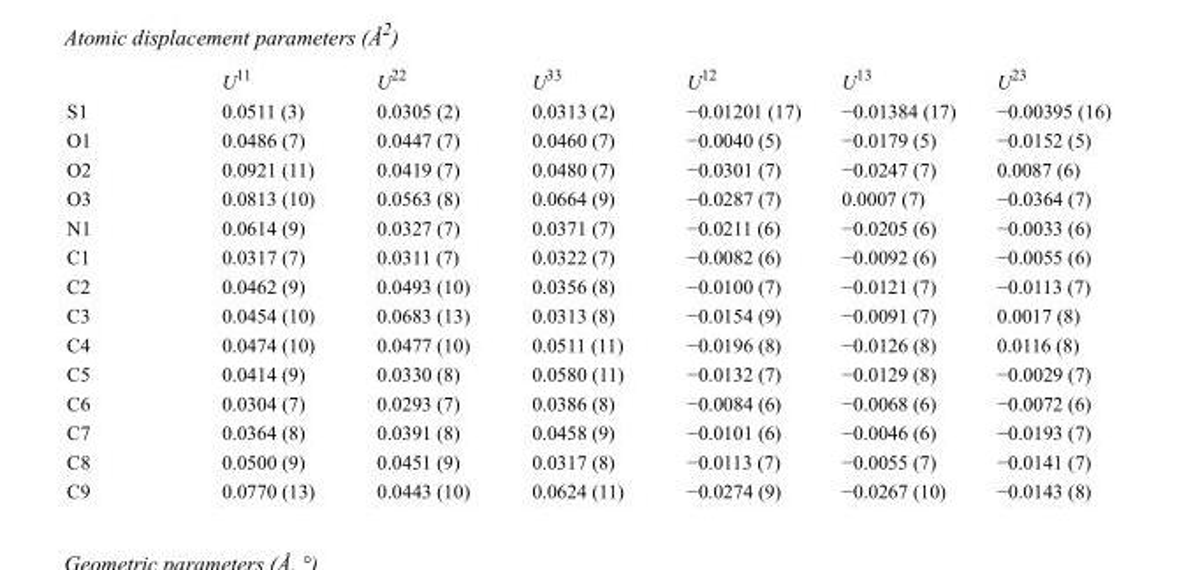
<table><thead><tr><td></td><td>U<sup>11</sup></td><td>U<sup>22</sup></td><td>U<sup>33</sup></td><td>U<sup>12</sup></td><td>U<sup>13</sup></td><td>U<sup>23</sup></td></tr></thead><tbody><tr><td>S1</td><td>0.0511 (3)</td><td>0.0305 (2)</td><td>0.0313 (2)</td><td>−0.01201 (17)</td><td>−0.01384 (17)</td><td>−0.00395 (16)</td></tr><tr><td>O1</td><td>0.0486 (7)</td><td>0.0447 (7)</td><td>0.0460 (7)</td><td>−0.0040 (5)</td><td>−0.0179 (5)</td><td>−0.0152 (5)</td></tr><tr><td>O2</td><td>0.0921 (11)</td><td>0.0419 (7)</td><td>0.0480 (7)</td><td>−0.0301 (7)</td><td>−0.0247 (7)</td><td>0.0087 (6)</td></tr><tr><td>O3</td><td>0.0813 (10)</td><td>0.0563 (8)</td><td>0.0664 (9)</td><td>−0.0287 (7)</td><td>0.0007 (7)</td><td>−0.0364 (7)</td></tr><tr><td>N1</td><td>0.0614 (9)</td><td>0.0327 (7)</td><td>0.0371 (7)</td><td>−0.0211 (6)</td><td>−0.0205 (6)</td><td>−0.0033 (6)</td></tr><tr><td>C1</td><td>0.0317 (7)</td><td>0.0311 (7)</td><td>0.0322 (7)</td><td>−0.0082 (6)</td><td>−0.0092 (6)</td><td>−0.0055 (6)</td></tr><tr><td>C2</td><td>0.0462 (9)</td><td>0.0493 (10)</td><td>0.0356 (8)</td><td>−0.0100 (7)</td><td>−0.0121 (7)</td><td>−0.0113 (7)</td></tr><tr><td>C3</td><td>0.0454 (10)</td><td>0.0683 (13)</td><td>0.0313 (8)</td><td>−0.0154 (9)</td><td>−0.0091 (7)</td><td>0.0017 (8)</td></tr><tr><td>C4</td><td>0.0474 (10)</td><td>0.0477 (10)</td><td>0.0511 (11)</td><td>−0.0196 (8)</td><td>−0.0126 (8)</td><td>0.0116 (8)</td></tr><tr><td>C5</td><td>0.0414 (9)</td><td>0.0330 (8)</td><td>0.0580 (11)</td><td>−0.0132 (7)</td><td>−0.0129 (8)</td><td>−0.0029 (7)</td></tr><tr><td>C6</td><td>0.0304 (7)</td><td>0.0293 (7)</td><td>0.0386 (8)</td><td>−0.0084 (6)</td><td>−0.0068 (6)</td><td>−0.0072 (6)</td></tr><tr><td>C7</td><td>0.0364 (8)</td><td>0.0391 (8)</td><td>0.0458 (9)</td><td>−0.0101 (6)</td><td>−0.0046 (6)</td><td>−0.0193 (7)</td></tr><tr><td>C8</td><td>0.0500 (9)</td><td>0.0451 (9)</td><td>0.0317 (8)</td><td>−0.0113 (7)</td><td>−0.0055 (7)</td><td>−0.0141 (7)</td></tr><tr><td>C9</td><td>0.0770 (13)</td><td>0.0443 (10)</td><td>0.0624 (11)</td><td>−0.0274 (9)</td><td>−0.0267 (10)</td><td>−0.0143 (8)</td></tr></tbody></table>